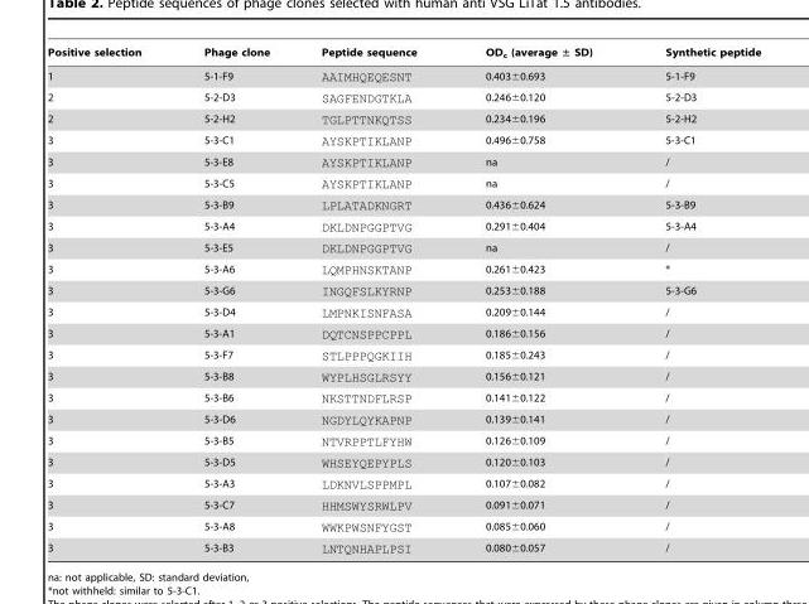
<table><thead><tr><td>Positive selection</td><td>Phage clone</td><td>Peptide sequence</td><td>OD<sub>c</sub> (average ± SD)</td><td>Synthetic peptide</td></tr></thead><tbody><tr><td>1</td><td>5-1-F9</td><td>AAIMHQEQESNT</td><td>0.403±0.693</td><td>5-1-F9</td></tr><tr><td>2</td><td>5-2-D3</td><td>SAGFENDGTKLA</td><td>0.246±0.120</td><td>5-2-D3</td></tr><tr><td>2</td><td>5-2-H2</td><td>TGLPTTNKQTSS</td><td>0.234±0.196</td><td>5-2-H2</td></tr><tr><td>3</td><td>5-3-C1</td><td>AYSKPTIKLANP</td><td>0.496±0.758</td><td>5-3-C1</td></tr><tr><td>3</td><td>5-3-E8</td><td>AYSKPTIKLANP</td><td>na</td><td>/</td></tr><tr><td>3</td><td>5-3-C5</td><td>AYSKPTIKLANP</td><td>na</td><td>/</td></tr><tr><td>3</td><td>5-3-B9</td><td>LPLATADKNGRT</td><td>0.436±0.624</td><td>5-3-B9</td></tr><tr><td>3</td><td>5-3-A4</td><td>DKLDNPGGPTVG</td><td>0.291±0.404</td><td>5-3-A4</td></tr><tr><td>3</td><td>5-3-E5</td><td>DKLDNPGGPTVG</td><td>na</td><td>/</td></tr><tr><td>3</td><td>5-3-A6</td><td>LQMPHNSKTANP</td><td>0.261±0.423</td><td>*</td></tr><tr><td>3</td><td>5-3-G6</td><td>INGQFSLKYRNP</td><td>0.253±0.188</td><td>5-3-G6</td></tr><tr><td>3</td><td>5-3-D4</td><td>LMPNKISNFASA</td><td>0.209±0.144</td><td>/</td></tr><tr><td>3</td><td>5-3-A1</td><td>DQTCNSPPCPPL</td><td>0.186±0.156</td><td>/</td></tr><tr><td>3</td><td>5-3-F7</td><td>STLPPPQGKIIH</td><td>0.185±0.243</td><td>/</td></tr><tr><td>3</td><td>5-3-B8</td><td>WYPLHSGLRSYY</td><td>0.156±0.121</td><td>/</td></tr><tr><td>3</td><td>5-3-B6</td><td>NKSTTNDFLRSP</td><td>0.141±0.122</td><td>/</td></tr><tr><td>3</td><td>5-3-D6</td><td>NGDYLQYKAPNP</td><td>0.139±0.141</td><td>/</td></tr><tr><td>3</td><td>5-3-B5</td><td>NTVRPPTLFYHW</td><td>0.126±0.109</td><td>/</td></tr><tr><td>3</td><td>5-3-D5</td><td>WHSEYQEPYPLS</td><td>0.120±0.103</td><td>/</td></tr><tr><td>3</td><td>5-3-A3</td><td>LDKNVLSPPMPL</td><td>0.107±0.082</td><td>/</td></tr><tr><td>3</td><td>5-3-C7</td><td>HHMSWYSRWLPV</td><td>0.091±0.071</td><td>/</td></tr><tr><td>3</td><td>5-3-A8</td><td>WWKPWSNFYGST</td><td>0.085±0.060</td><td>/</td></tr><tr><td>3</td><td>5-3-B3</td><td>LNTQNHAPLPSI</td><td>0.080±0.057</td><td>/</td></tr></tbody></table>